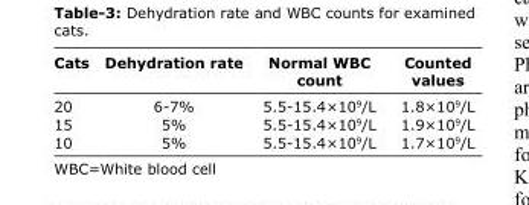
<table><thead><tr><td>Cats</td><td>Dehydration rate</td><td>Normal WBC count</td><td>Counted values</td></tr></thead><tbody><tr><td>20</td><td>6-7%</td><td>5.5-15.4×10<sup>9</sup>/L</td><td>1.8×10<sup>9</sup>/L</td></tr><tr><td>15</td><td>5%</td><td>5.5-15.4×10<sup>9</sup>/L</td><td>1.9×10<sup>9</sup>/L</td></tr><tr><td>10</td><td>5%</td><td>5.5-15.4×10<sup>9</sup>/L</td><td>1.7×10<sup>9</sup>/L</td></tr></tbody></table>